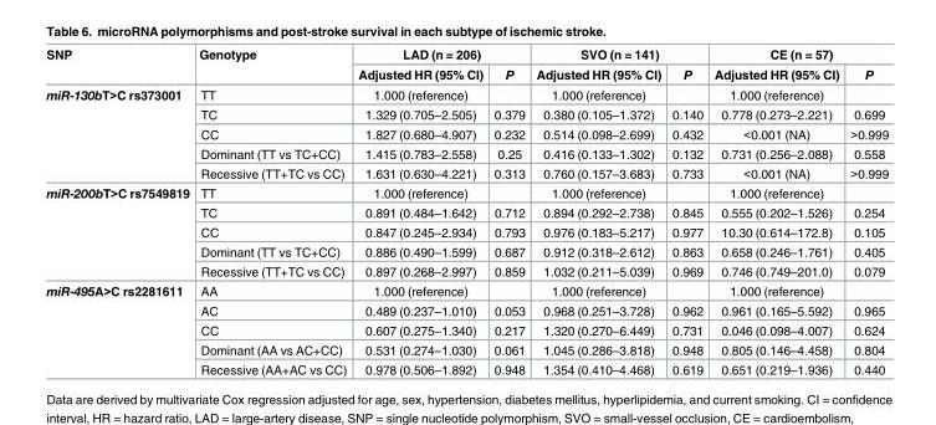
<table><thead><tr><td rowspan="2">SNP</td><td rowspan="2">Genotype</td><td colspan="2">LAD (n = 206)</td><td colspan="2">SVO (n = 141)</td><td colspan="2">CE (n = 57)</td></tr><tr><td>Adjusted HR (95% CI)</td><td>P</td><td>Adjusted HR (95% CI)</td><td>P</td><td>Adjusted HR (95% CI)</td><td>P</td></tr></thead><tbody><tr><td rowspan="5">miR-130bT&gt;C rs373001</td><td>TT</td><td>1.000 (reference)</td><td></td><td>1.000 (reference)</td><td></td><td>1.000 (reference)</td><td></td></tr><tr><td>TC</td><td>1.329 (0.705–2.505)</td><td>0.379</td><td>0.380 (0.105–1.372)</td><td>0.140</td><td>0.778 (0.273–2.221)</td><td>0.699</td></tr><tr><td>CC</td><td>1.827 (0.680–4.907)</td><td>0.232</td><td>0.514 (0.098–2.699)</td><td>0.432</td><td>&lt;0.001 (NA)</td><td>&gt;0.999</td></tr><tr><td>Dominant (TT vs TC+CC)</td><td>1.415 (0.783–2.558)</td><td>0.25</td><td>0.416 (0.133–1.302)</td><td>0.132</td><td>0.731 (0.256–2.088)</td><td>0.558</td></tr><tr><td>Recessive (TT+TC vs CC)</td><td>1.631 (0.630–4.221)</td><td>0.313</td><td>0.760 (0.157–3.683)</td><td>0.733</td><td>&lt;0.001 (NA)</td><td>&gt;0.999</td></tr><tr><td rowspan="5">miR-200bT&gt;C rs7549819</td><td>TT</td><td>1.000 (reference)</td><td></td><td>1.000 (reference)</td><td></td><td>1.000 (reference)</td><td></td></tr><tr><td>TC</td><td>0.891 (0.484–1.642)</td><td>0.712</td><td>0.894 (0.292–2.738)</td><td>0.845</td><td>0.555 (0.202–1.526)</td><td>0.254</td></tr><tr><td>CC</td><td>0.847 (0.245–2.934)</td><td>0.793</td><td>0.976 (0.183–5.217)</td><td>0.977</td><td>10.30 (0.614–172.8)</td><td>0.105</td></tr><tr><td>Dominant (TT vs TC+CC)</td><td>0.886 (0.490–1.599)</td><td>0.687</td><td>0.912 (0.318–2.612)</td><td>0.863</td><td>0.658 (0.246–1.761)</td><td>0.405</td></tr><tr><td>Recessive (TT+TC vs CC)</td><td>0.897 (0.268–2.997)</td><td>0.859</td><td>1.032 (0.211–5.039)</td><td>0.969</td><td>0.746 (0.749–201.0)</td><td>0.079</td></tr><tr><td rowspan="5">miR-495A&gt;C rs2281611</td><td>AA</td><td>1.000 (reference)</td><td></td><td>1.000 (reference)</td><td></td><td>1.000 (reference)</td><td></td></tr><tr><td>AC</td><td>0.489 (0.237–1.010)</td><td>0.053</td><td>0.968 (0.251–3.728)</td><td>0.962</td><td>0.961 (0.165–5.592)</td><td>0.965</td></tr><tr><td>CC</td><td>0.607 (0.275–1.340)</td><td>0.217</td><td>1.320 (0.270–6.449)</td><td>0.731</td><td>0.046 (0.098–4.007)</td><td>0.624</td></tr><tr><td>Dominant (AA vs AC+CC)</td><td>0.531 (0.274–1.030)</td><td>0.061</td><td>1.045 (0.286–3.818)</td><td>0.948</td><td>0.805 (0.146–4.458)</td><td>0.804</td></tr><tr><td>Recessive (AA+AC vs CC)</td><td>0.978 (0.506–1.892)</td><td>0.948</td><td>1.354 (0.410–4.468)</td><td>0.619</td><td>0.651 (0.219–1.936)</td><td>0.440</td></tr></tbody></table>